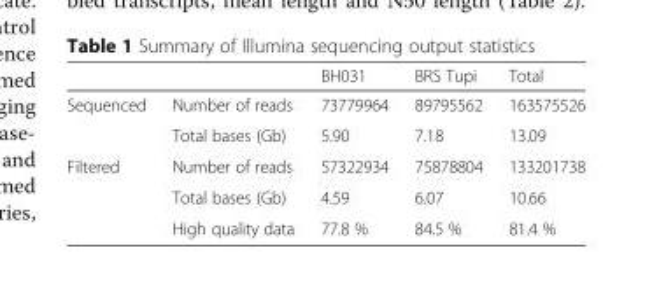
<table><thead><tr><td></td><td></td><td>BH031</td><td>BRS Tupi</td><td>Total</td></tr></thead><tbody><tr><td rowspan="2">Sequenced</td><td>Number of reads</td><td>73779964</td><td>89795562</td><td>163575526</td></tr><tr><td>Total bases (Gb)</td><td>5.90</td><td>7.18</td><td>13.09</td></tr><tr><td rowspan="3">Filtered</td><td>Number of reads</td><td>57322934</td><td>75878804</td><td>133201738</td></tr><tr><td>Total bases (Gb)</td><td>4.59</td><td>6.07</td><td>10.66</td></tr><tr><td>High quality data</td><td>77.8 %</td><td>84.5 %</td><td>81.4 %</td></tr></tbody></table>